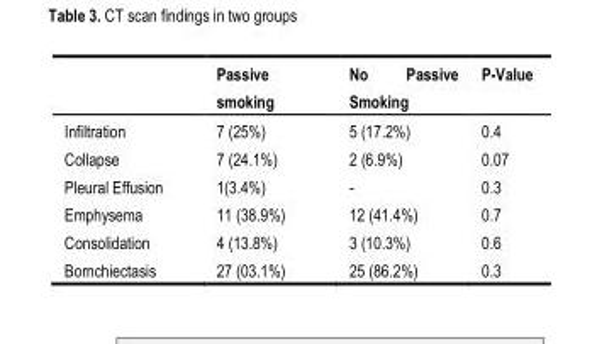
<table><thead><tr><td></td><td>Passive smoking</td><td>No Passive Smoking</td><td>P-Value</td></tr></thead><tbody><tr><td>Infiltration</td><td>7 (25%)</td><td>5 (17.2%)</td><td>0.4</td></tr><tr><td>Collapse</td><td>7 (24.1%)</td><td>2 (6.9%)</td><td>0.07</td></tr><tr><td>Pleural Effusion</td><td>1(3.4%)</td><td>-</td><td>0.3</td></tr><tr><td>Emphysema</td><td>11 (38.9%)</td><td>12 (41.4%)</td><td>0.7</td></tr><tr><td>Consolidation</td><td>4 (13.8%)</td><td>3 (10.3%)</td><td>0.6</td></tr><tr><td>Bornchiectasis</td><td>27 (03.1%)</td><td>25 (86.2%)</td><td>0.3</td></tr></tbody></table>